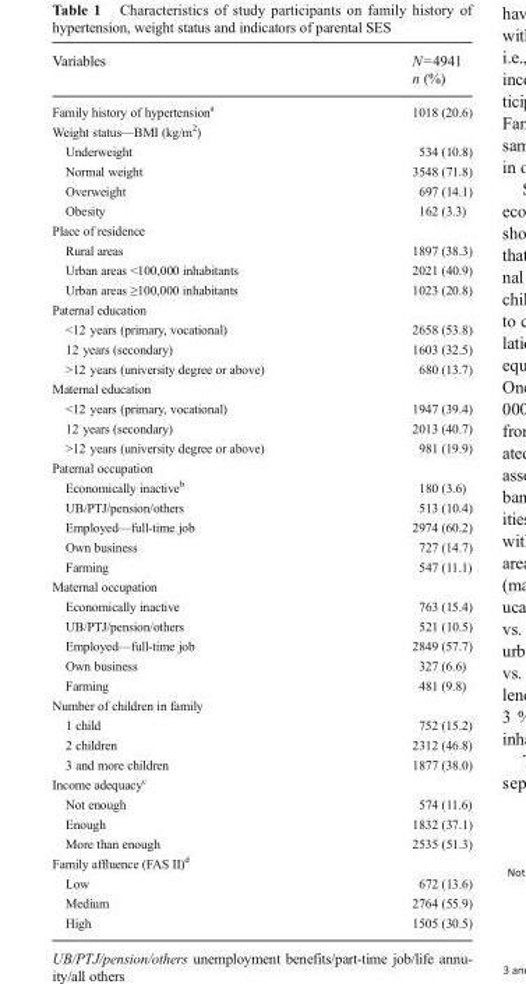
<table><thead><tr><td rowspan="2">Variables</td><td rowspan="2">N=4941 n (%)</td></tr><tr></tr></thead><tbody><tr><td>Family history of hypertension<sup>a</sup></td><td>1018 (20.6)</td></tr><tr><td colspan="2">Weight status—BMI (kg/m<sup>2</sup>)</td></tr><tr><td>Underweight</td><td>534 (10.8)</td></tr><tr><td>Normal weight</td><td>3548 (71.8)</td></tr><tr><td>Overweight</td><td>697 (14.1)</td></tr><tr><td>Obesity</td><td>162 (3.3)</td></tr><tr><td colspan="2">Place of residence</td></tr><tr><td>Rural areas</td><td>1897 (38.3)</td></tr><tr><td>Urban areas &lt;100,000 inhabitants</td><td>2021 (40.9)</td></tr><tr><td>Urban areas ≥100,000 inhabitants</td><td>1023 (20.8)</td></tr><tr><td colspan="2">Paternal education</td></tr><tr><td>&lt;12 years (primary, vocational)</td><td>2658 (53.8)</td></tr><tr><td>12 years (secondary)</td><td>1603 (32.5)</td></tr><tr><td>&gt;12 years (university degree or above)</td><td>680 (13.7)</td></tr><tr><td colspan="2">Maternal education</td></tr><tr><td>&lt;12 years (primary, vocational)</td><td>1947 (39.4)</td></tr><tr><td>12 years (secondary)</td><td>2013 (40.7)</td></tr><tr><td>&gt;12 years (university degree or above)</td><td>981 (19.9)</td></tr><tr><td colspan="2">Paternal occupation</td></tr><tr><td>Economically inactive<sup>b</sup></td><td>180 (3.6)</td></tr><tr><td>UB/PTJ/pension/others</td><td>513 (10.4)</td></tr><tr><td>Employed—full-time job</td><td>2974 (60.2)</td></tr><tr><td>Own business</td><td>727 (14.7)</td></tr><tr><td>Farming</td><td>547 (11.1)</td></tr><tr><td colspan="2">Maternal occupation</td></tr><tr><td>Economically inactive</td><td>763 (15.4)</td></tr><tr><td>UB/PTJ/pension/others</td><td>521 (10.5)</td></tr><tr><td>Employed—full-time job</td><td>2849 (57.7)</td></tr><tr><td>Own business</td><td>327 (6.6)</td></tr><tr><td>Farming</td><td>481 (9.8)</td></tr><tr><td colspan="2">Number of children in family</td></tr><tr><td>1 child</td><td>752 (15.2)</td></tr><tr><td>2 children</td><td>2312 (46.8)</td></tr><tr><td>3 and more children</td><td>1877 (38.0)</td></tr><tr><td colspan="2">Income adequacy<sup>c</sup></td></tr><tr><td>Not enough</td><td>574 (11.6)</td></tr><tr><td>Enough</td><td>1832 (37.1)</td></tr><tr><td>More than enough</td><td>2535 (51.3)</td></tr><tr><td colspan="2">Family affluence (FAS II)<sup>d</sup></td></tr><tr><td>Low</td><td>672 (13.6)</td></tr><tr><td>Medium</td><td>2764 (55.9)</td></tr><tr><td>High</td><td>1505 (30.5)</td></tr></tbody></table>